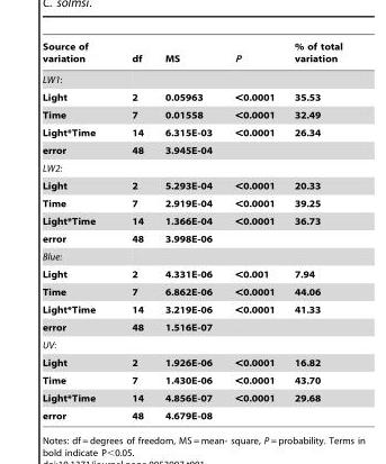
<table><thead><tr><td>Source of variation</td><td>df</td><td>MS</td><td>P</td><td>% of total variation</td></tr></thead><tbody><tr><td colspan="5">LW1:</td></tr><tr><td>Light</td><td>2</td><td>0.05963</td><td>&lt;0.0001</td><td>35.53</td></tr><tr><td>Time</td><td>7</td><td>0.01558</td><td>&lt;0.0001</td><td>32.49</td></tr><tr><td>Light*Time</td><td>14</td><td>6.315E-03</td><td>&lt;0.0001</td><td>26.34</td></tr><tr><td>error</td><td>48</td><td>3.945E-04</td><td></td><td></td></tr><tr><td colspan="5">LW2:</td></tr><tr><td>Light</td><td>2</td><td>5.293E-04</td><td>&lt;0.0001</td><td>20.33</td></tr><tr><td>Time</td><td>7</td><td>2.919E-04</td><td>&lt;0.0001</td><td>39.25</td></tr><tr><td>Light*Time</td><td>14</td><td>1.366E-04</td><td>&lt;0.0001</td><td>36.73</td></tr><tr><td>error</td><td>48</td><td>3.998E-06</td><td></td><td></td></tr><tr><td colspan="5">Blue:</td></tr><tr><td>Light</td><td>2</td><td>4.331E-06</td><td>&lt;0.001</td><td>7.94</td></tr><tr><td>Time</td><td>7</td><td>6.862E-06</td><td>&lt;0.0001</td><td>44.06</td></tr><tr><td>Light*Time</td><td>14</td><td>3.219E-06</td><td>&lt;0.0001</td><td>41.33</td></tr><tr><td>error</td><td>48</td><td>1.516E-07</td><td></td><td></td></tr><tr><td colspan="5">UV:</td></tr><tr><td>Light</td><td>2</td><td>1.926E-06</td><td>&lt;0.0001</td><td>16.82</td></tr><tr><td>Time</td><td>7</td><td>1.430E-06</td><td>&lt;0.0001</td><td>43.70</td></tr><tr><td>Light*Time</td><td>14</td><td>4.856E-07</td><td>&lt;0.0001</td><td>29.68</td></tr><tr><td>error</td><td>48</td><td>4.679E-08</td><td></td><td></td></tr></tbody></table>